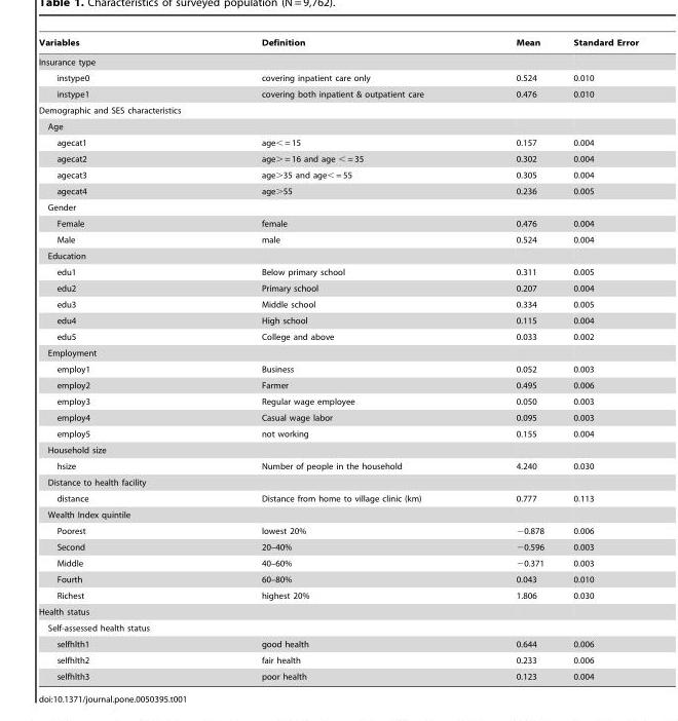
<table><thead><tr><td>Variables</td><td>Definition</td><td>Mean</td><td>Standard Error</td></tr></thead><tbody><tr><td colspan="4">Insurance type</td></tr><tr><td>instype0</td><td>covering inpatient care only</td><td>0.524</td><td>0.010</td></tr><tr><td>instype1</td><td>covering both inpatient &amp; outpatient care</td><td>0.476</td><td>0.010</td></tr><tr><td colspan="4">Demographic and SES characteristics</td></tr><tr><td colspan="4">Age</td></tr><tr><td>agecat1</td><td>age&lt; = 15</td><td>0.157</td><td>0.004</td></tr><tr><td>agecat2</td><td>age&gt; = 16 and age &lt; = 35</td><td>0.302</td><td>0.004</td></tr><tr><td>agecat3</td><td>age&gt;35 and age&lt; = 55</td><td>0.305</td><td>0.004</td></tr><tr><td>agecat4</td><td>age&gt;55</td><td>0.236</td><td>0.005</td></tr><tr><td colspan="4">Gender</td></tr><tr><td>Female</td><td>female</td><td>0.476</td><td>0.004</td></tr><tr><td>Male</td><td>male</td><td>0.524</td><td>0.004</td></tr><tr><td colspan="4">Education</td></tr><tr><td>edu1</td><td>Below primary school</td><td>0.311</td><td>0.005</td></tr><tr><td>edu2</td><td>Primary school</td><td>0.207</td><td>0.004</td></tr><tr><td>edu3</td><td>Middle school</td><td>0.334</td><td>0.005</td></tr><tr><td>edu4</td><td>High school</td><td>0.115</td><td>0.004</td></tr><tr><td>edu5</td><td>College and above</td><td>0.033</td><td>0.002</td></tr><tr><td colspan="4">Employment</td></tr><tr><td>employ1</td><td>Business</td><td>0.052</td><td>0.003</td></tr><tr><td>employ2</td><td>Farmer</td><td>0.495</td><td>0.006</td></tr><tr><td>employ3</td><td>Regular wage employee</td><td>0.050</td><td>0.003</td></tr><tr><td>employ4</td><td>Casual wage labor</td><td>0.095</td><td>0.003</td></tr><tr><td>employ5</td><td>not working</td><td>0.155</td><td>0.004</td></tr><tr><td colspan="4">Household size</td></tr><tr><td>hsize</td><td>Number of people in the household</td><td>4.240</td><td>0.030</td></tr><tr><td colspan="4">Distance to health facility</td></tr><tr><td>distance</td><td>Distance from home to village clinic (km)</td><td>0.777</td><td>0.113</td></tr><tr><td colspan="4">Wealth Index quintile</td></tr><tr><td>Poorest</td><td>lowest 20%</td><td>−0.878</td><td>0.006</td></tr><tr><td>Second</td><td>20–40%</td><td>−0.596</td><td>0.003</td></tr><tr><td>Middle</td><td>40–60%</td><td>−0.371</td><td>0.003</td></tr><tr><td>Fourth</td><td>60–80%</td><td>0.043</td><td>0.010</td></tr><tr><td>Richest</td><td>highest 20%</td><td>1.806</td><td>0.030</td></tr><tr><td colspan="4">Health status</td></tr><tr><td colspan="4">Self-assessed health status</td></tr><tr><td>selfhlth1</td><td>good health</td><td>0.644</td><td>0.006</td></tr><tr><td>selfhlth2</td><td>fair health</td><td>0.233</td><td>0.006</td></tr><tr><td>selfhlth3</td><td>poor health</td><td>0.123</td><td>0.004</td></tr></tbody></table>